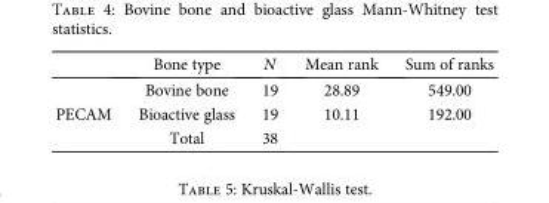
<table><thead><tr><td></td><td>Bone type</td><td>N</td><td>Mean rank</td><td>Sum of ranks</td></tr></thead><tbody><tr><td rowspan="3">PECAM</td><td>Bovine bone</td><td>19</td><td>28.89</td><td>549.00</td></tr><tr><td>Bioactive glass</td><td>19</td><td>10.11</td><td>192.00</td></tr><tr><td>Total</td><td>38</td><td></td><td></td></tr></tbody></table>